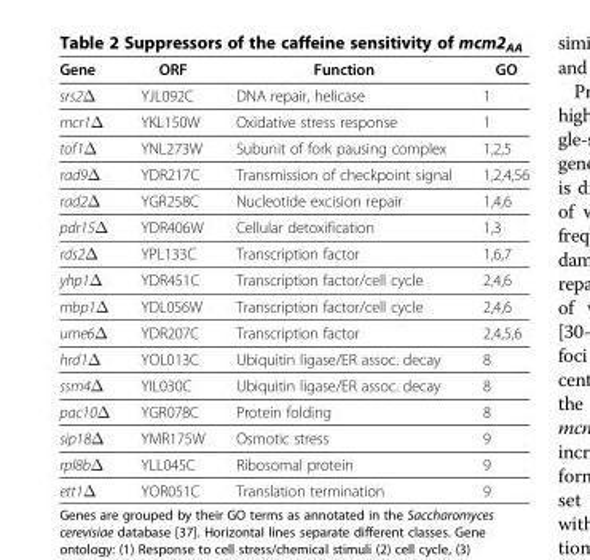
<table><thead><tr><td>Gene</td><td>ORF</td><td>Function</td><td>GO</td></tr></thead><tbody><tr><td>srs2Δ</td><td>YJL092C</td><td>DNA repair, helicase</td><td>1</td></tr><tr><td>mcr1Δ</td><td>YKL150W</td><td>Oxidative stress response</td><td>1</td></tr><tr><td>tof1Δ</td><td>YNL273W</td><td>Subunit of fork pausing complex</td><td>1,2,5</td></tr><tr><td>rad9Δ</td><td>YDR217C</td><td>Transmission of checkpoint signal</td><td>1,2,4,56</td></tr><tr><td>rad2Δ</td><td>YGR258C</td><td>Nucleotide excision repair</td><td>1,4,6</td></tr><tr><td>pdr15Δ</td><td>YDR406W</td><td>Cellular detoxification</td><td>1,3</td></tr><tr><td>rds2Δ</td><td>YPL133C</td><td>Transcription factor</td><td>1,6,7</td></tr><tr><td>yhp1Δ</td><td>YDR451C</td><td>Transcription factor/cell cycle</td><td>2,4,6</td></tr><tr><td>mbp1Δ</td><td>YDL056W</td><td>Transcription factor/cell cycle</td><td>2,4,6</td></tr><tr><td>ume6Δ</td><td>YDR207C</td><td>Transcription factor</td><td>2,4,5,6</td></tr><tr><td>hrd1Δ</td><td>YOL013C</td><td>Ubiquitin ligase/ER assoc. decay</td><td>8</td></tr><tr><td>ssm4Δ</td><td>YIL030C</td><td>Ubiquitin ligase/ER assoc. decay</td><td>8</td></tr><tr><td>pac10Δ</td><td>YGR078C</td><td>Protein folding</td><td>8</td></tr><tr><td>sip18Δ</td><td>YMR175W</td><td>Osmotic stress</td><td>9</td></tr><tr><td>rpl8bΔ</td><td>YLL045C</td><td>Ribosomal protein</td><td>9</td></tr><tr><td>ett1Δ</td><td>YOR051C</td><td>Translation termination</td><td>9</td></tr></tbody></table>